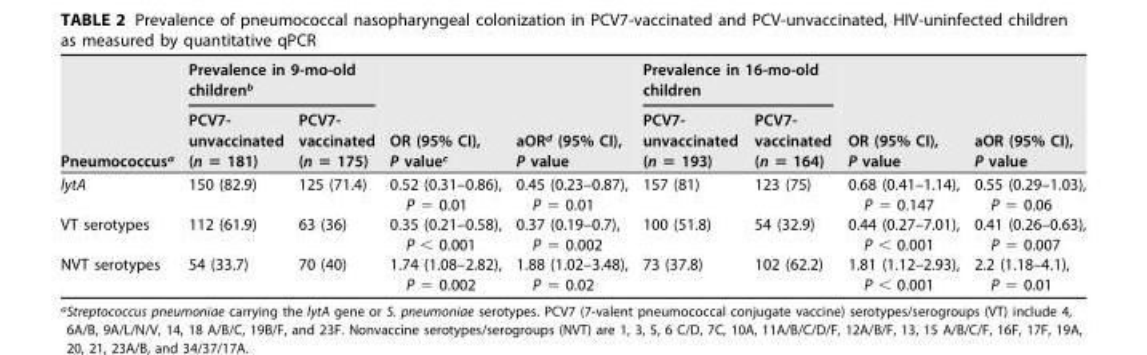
<table><thead><tr><td rowspan="2">Pneumococcus<sup>a</sup></td><td colspan="2">Prevalence in 9-mo-old children<sup>b</sup></td><td rowspan="2">OR (95% CI), P value<sup>c</sup></td><td rowspan="2">aOR<sup>d</sup> (95% CI), P value</td><td colspan="2">Prevalence in 16-mo-old children</td><td rowspan="2">OR (95% CI), P value</td><td rowspan="2">aOR (95% CI), P value</td></tr><tr><td>PCV7- unvaccinated (n = 181)</td><td>PCV7- vaccinated (n = 175)</td><td>PCV7- unvaccinated (n = 193)</td><td>PCV7- vaccinated (n = 164)</td></tr></thead><tbody><tr><td>lytA</td><td>150 (82.9)</td><td>125 (71.4)</td><td>0.52 (0.31–0.86), P = 0.01</td><td>0.45 (0.23–0.87), P = 0.01</td><td>157 (81)</td><td>123 (75)</td><td>0.68 (0.41–1.14), P = 0.147</td><td>0.55 (0.29–1.03), P = 0.06</td></tr><tr><td>VT serotypes</td><td>112 (61.9)</td><td>63 (36)</td><td>0.35 (0.21–0.58), P &lt; 0.001</td><td>0.37 (0.19–0.7), P = 0.002</td><td>100 (51.8)</td><td>54 (32.9)</td><td>0.44 (0.27–7.01), P &lt; 0.001</td><td>0.41 (0.26–0.63), P = 0.007</td></tr><tr><td>NVT serotypes</td><td>54 (33.7)</td><td>70 (40)</td><td>1.74 (1.08–2.82), P = 0.002</td><td>1.88 (1.02–3.48), P = 0.02</td><td>73 (37.8)</td><td>102 (62.2)</td><td>1.81 (1.12–2.93), P &lt; 0.001</td><td>2.2 (1.18–4.1), P = 0.01</td></tr></tbody></table>